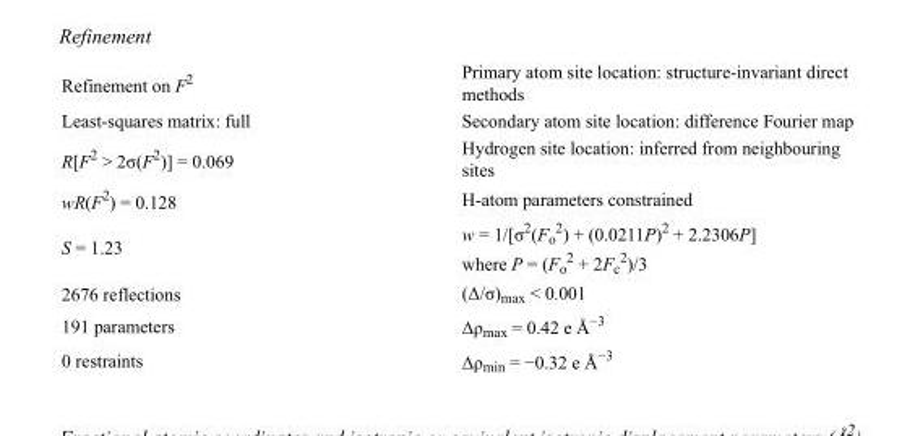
<table><tbody><tr><td>Refinement on F<sup>2</sup></td><td>Primary atom site location: structure-invariant direct methods</td></tr><tr><td>Least-squares matrix: full</td><td>Secondary atom site location: difference Fourier map</td></tr><tr><td>R[F<sup>2</sup> &gt; 2σ(F<sup>2</sup>)] = 0.069</td><td>Hydrogen site location: inferred from neighbouring sites</td></tr><tr><td>wR(F<sup>2</sup>) = 0.128</td><td>H-atom parameters constrained</td></tr><tr><td>S = 1.23</td><td>w = 1/[σ<sup>2</sup>(F<sub>o</sub> <sup>2</sup>) + (0.0211P)<sup>2</sup> + 2.2306P] where P = (F<sub>o</sub> <sup>2</sup> + 2F<sub>c</sub> <sup>2</sup>)/3</td></tr><tr><td>2676 reflections</td><td>(Δ/σ)<sub>max</sub> &lt; 0.001</td></tr><tr><td>191 parameters</td><td>Δρ<sub>max</sub> = 0.42 e Å<sup>−3</sup></td></tr><tr><td>0 restraints</td><td>Δρ<sub>min</sub> = −0.32 e Å<sup>−3</sup></td></tr></tbody></table>